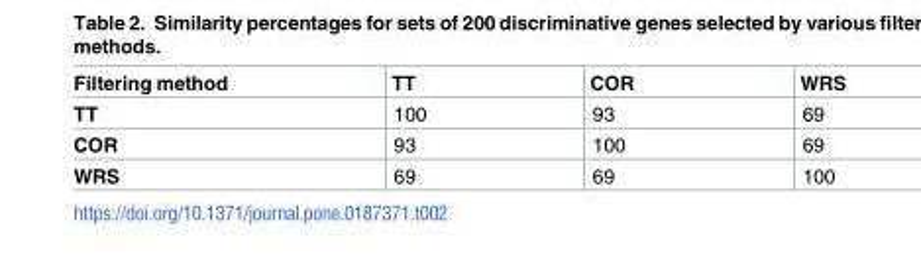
<table><thead><tr><td>Filtering method</td><td>TT</td><td>COR</td><td>WRS</td></tr></thead><tbody><tr><td>TT</td><td>100</td><td>93</td><td>69</td></tr><tr><td>COR</td><td>93</td><td>100</td><td>69</td></tr><tr><td>WRS</td><td>69</td><td>69</td><td>100</td></tr></tbody></table>